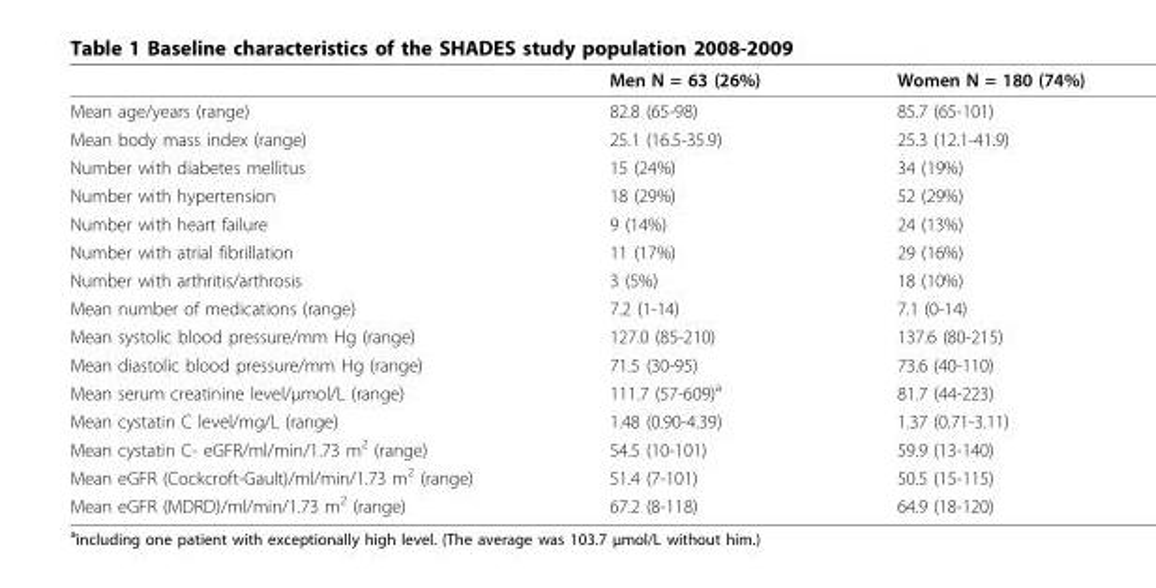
<table><thead><tr><td></td><td>Men N = 63 (26%)</td><td>Women N = 180 (74%)</td></tr></thead><tbody><tr><td>Mean age/years (range)</td><td>82.8 (65-98)</td><td>85.7 (65-101)</td></tr><tr><td>Mean body mass index (range)</td><td>25.1 (16.5-35.9)</td><td>25.3 (12.1-41.9)</td></tr><tr><td>Number with diabetes mellitus</td><td>15 (24%)</td><td>34 (19%)</td></tr><tr><td>Number with hypertension</td><td>18 (29%)</td><td>52 (29%)</td></tr><tr><td>Number with heart failure</td><td>9 (14%)</td><td>24 (13%)</td></tr><tr><td>Number with atrial fibrillation</td><td>11 (17%)</td><td>29 (16%)</td></tr><tr><td>Number with arthritis/arthrosis</td><td>3 (5%)</td><td>18 (10%)</td></tr><tr><td>Mean number of medications (range)</td><td>7.2 (1-14)</td><td>7.1 (0-14)</td></tr><tr><td>Mean systolic blood pressure/mm Hg (range)</td><td>127.0 (85-210)</td><td>137.6 (80-215)</td></tr><tr><td>Mean diastolic blood pressure/mm Hg (range)</td><td>71.5 (30-95)</td><td>73.6 (40-110)</td></tr><tr><td>Mean serum creatinine level/μmol/L (range)</td><td>111.7 (57-609)<sup>a</sup></td><td>81.7 (44-223)</td></tr><tr><td>Mean cystatin C level/mg/L (range)</td><td>1.48 (0.90-4.39)</td><td>1.37 (0.71-3.11)</td></tr><tr><td>Mean cystatin C- eGFR/ml/min/1.73 m<sup>2</sup> (range)</td><td>54.5 (10-101)</td><td>59.9 (13-140)</td></tr><tr><td>Mean eGFR (Cockcroft-Gault)/ml/min/1.73 m<sup>2</sup> (range)</td><td>51.4 (7-101)</td><td>50.5 (15-115)</td></tr><tr><td>Mean eGFR (MDRD)/ml/min/1.73 m<sup>2</sup> (range)</td><td>67.2 (8-118)</td><td>64.9 (18-120)</td></tr></tbody></table>